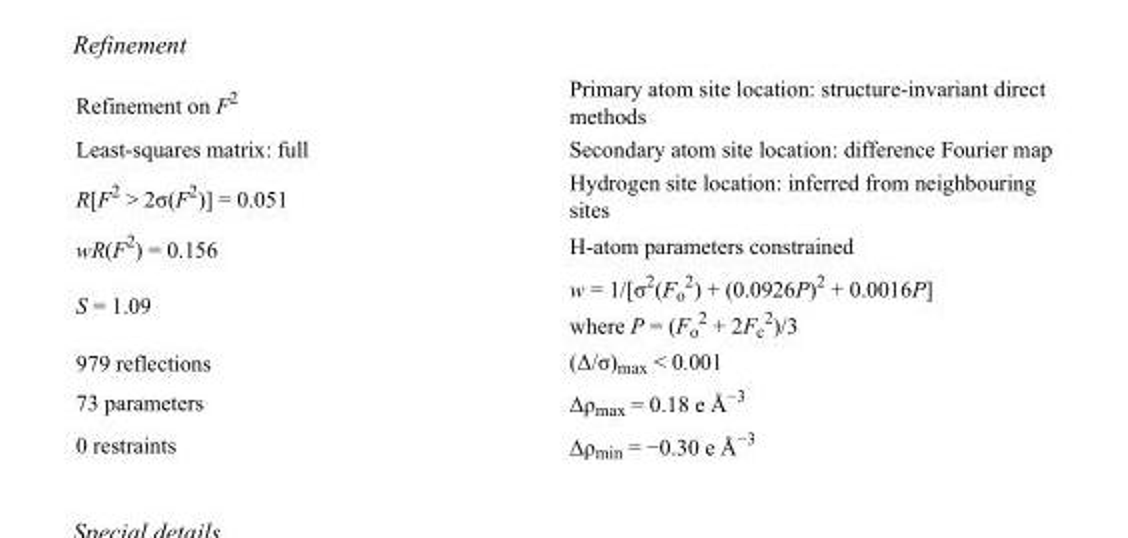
<table><tbody><tr><td>Refinement on F<sup>2</sup></td><td>Primary atom site location: structure-invariant direct methods</td></tr><tr><td>Least-squares matrix: full</td><td>Secondary atom site location: difference Fourier map</td></tr><tr><td>R[F<sup>2</sup> &gt; 2σ(F<sup>2</sup>)] = 0.051</td><td>Hydrogen site location: inferred from neighbouring sites</td></tr><tr><td>wR(F<sup>2</sup>) = 0.156</td><td>H-atom parameters constrained</td></tr><tr><td>S = 1.09</td><td>w = 1/[σ<sup>2</sup>(F<sub>o</sub> <sup>2</sup>) + (0.0926P)<sup>2</sup> + 0.0016P] where P = (F<sub>o</sub> <sup>2</sup> + 2F<sub>c</sub> <sup>2</sup>)/3</td></tr><tr><td>979 reflections</td><td>(Δ/σ)<sub>max</sub> &lt; 0.001</td></tr><tr><td>73 parameters</td><td>Δρ<sub>max</sub> = 0.18 e Å<sup>−3</sup></td></tr><tr><td>0 restraints</td><td>Δρ<sub>min</sub> = −0.30 e Å<sup>−3</sup></td></tr></tbody></table>